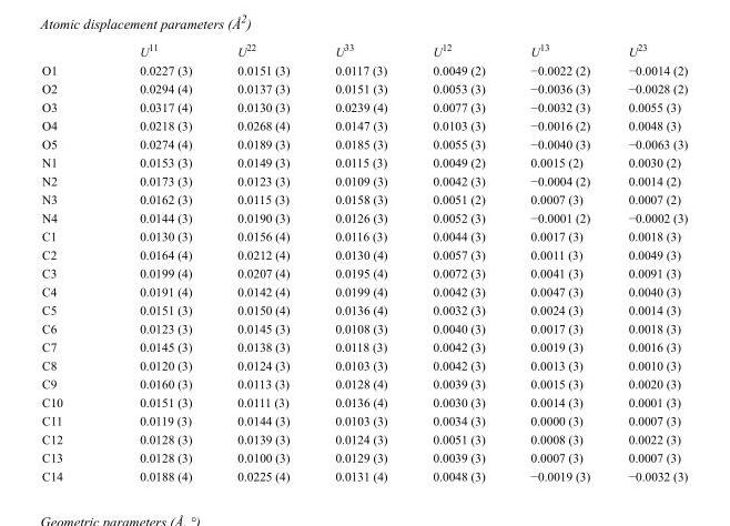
<table><thead><tr><td></td><td>U<sup>11</sup></td><td>U<sup>22</sup></td><td>U<sup>33</sup></td><td>U<sup>12</sup></td><td>U<sup>13</sup></td><td>U<sup>23</sup></td></tr></thead><tbody><tr><td>O1</td><td>0.0227 (3)</td><td>0.0151 (3)</td><td>0.0117 (3)</td><td>0.0049 (2)</td><td>−0.0022 (2)</td><td>−0.0014 (2)</td></tr><tr><td>O2</td><td>0.0294 (4)</td><td>0.0137 (3)</td><td>0.0151 (3)</td><td>0.0053 (3)</td><td>−0.0036 (3)</td><td>−0.0028 (2)</td></tr><tr><td>O3</td><td>0.0317 (4)</td><td>0.0130 (3)</td><td>0.0239 (4)</td><td>0.0077 (3)</td><td>−0.0032 (3)</td><td>0.0055 (3)</td></tr><tr><td>O4</td><td>0.0218 (3)</td><td>0.0268 (4)</td><td>0.0147 (3)</td><td>0.0103 (3)</td><td>−0.0016 (2)</td><td>0.0048 (3)</td></tr><tr><td>O5</td><td>0.0274 (4)</td><td>0.0189 (3)</td><td>0.0185 (3)</td><td>0.0055 (3)</td><td>−0.0040 (3)</td><td>−0.0063 (3)</td></tr><tr><td>N1</td><td>0.0153 (3)</td><td>0.0149 (3)</td><td>0.0115 (3)</td><td>0.0049 (2)</td><td>0.0015 (2)</td><td>0.0030 (2)</td></tr><tr><td>N2</td><td>0.0173 (3)</td><td>0.0123 (3)</td><td>0.0109 (3)</td><td>0.0042 (3)</td><td>−0.0004 (2)</td><td>0.0014 (2)</td></tr><tr><td>N3</td><td>0.0162 (3)</td><td>0.0115 (3)</td><td>0.0158 (3)</td><td>0.0051 (2)</td><td>0.0007 (3)</td><td>0.0007 (2)</td></tr><tr><td>N4</td><td>0.0144 (3)</td><td>0.0190 (3)</td><td>0.0126 (3)</td><td>0.0052 (3)</td><td>−0.0001 (2)</td><td>−0.0002 (3)</td></tr><tr><td>C1</td><td>0.0130 (3)</td><td>0.0156 (4)</td><td>0.0116 (3)</td><td>0.0044 (3)</td><td>0.0017 (3)</td><td>0.0018 (3)</td></tr><tr><td>C2</td><td>0.0164 (4)</td><td>0.0212 (4)</td><td>0.0130 (4)</td><td>0.0057 (3)</td><td>0.0011 (3)</td><td>0.0049 (3)</td></tr><tr><td>C3</td><td>0.0199 (4)</td><td>0.0207 (4)</td><td>0.0195 (4)</td><td>0.0072 (3)</td><td>0.0041 (3)</td><td>0.0091 (3)</td></tr><tr><td>C4</td><td>0.0191 (4)</td><td>0.0142 (4)</td><td>0.0199 (4)</td><td>0.0042 (3)</td><td>0.0047 (3)</td><td>0.0040 (3)</td></tr><tr><td>C5</td><td>0.0151 (3)</td><td>0.0150 (4)</td><td>0.0136 (4)</td><td>0.0032 (3)</td><td>0.0024 (3)</td><td>0.0014 (3)</td></tr><tr><td>C6</td><td>0.0123 (3)</td><td>0.0145 (3)</td><td>0.0108 (3)</td><td>0.0040 (3)</td><td>0.0017 (3)</td><td>0.0018 (3)</td></tr><tr><td>C7</td><td>0.0145 (3)</td><td>0.0138 (3)</td><td>0.0118 (3)</td><td>0.0042 (3)</td><td>0.0019 (3)</td><td>0.0016 (3)</td></tr><tr><td>C8</td><td>0.0120 (3)</td><td>0.0124 (3)</td><td>0.0103 (3)</td><td>0.0042 (3)</td><td>0.0013 (3)</td><td>0.0010 (3)</td></tr><tr><td>C9</td><td>0.0160 (3)</td><td>0.0113 (3)</td><td>0.0128 (4)</td><td>0.0039 (3)</td><td>0.0015 (3)</td><td>0.0020 (3)</td></tr><tr><td>C10</td><td>0.0151 (3)</td><td>0.0111 (3)</td><td>0.0136 (4)</td><td>0.0030 (3)</td><td>0.0014 (3)</td><td>0.0001 (3)</td></tr><tr><td>C11</td><td>0.0119 (3)</td><td>0.0144 (3)</td><td>0.0103 (3)</td><td>0.0034 (3)</td><td>0.0000 (3)</td><td>0.0007 (3)</td></tr><tr><td>C12</td><td>0.0128 (3)</td><td>0.0139 (3)</td><td>0.0124 (3)</td><td>0.0051 (3)</td><td>0.0008 (3)</td><td>0.0022 (3)</td></tr><tr><td>C13</td><td>0.0128 (3)</td><td>0.0100 (3)</td><td>0.0129 (3)</td><td>0.0039 (3)</td><td>0.0007 (3)</td><td>0.0007 (3)</td></tr><tr><td>C14</td><td>0.0188 (4)</td><td>0.0225 (4)</td><td>0.0131 (4)</td><td>0.0048 (3)</td><td>−0.0019 (3)</td><td>−0.0032 (3)</td></tr></tbody></table>